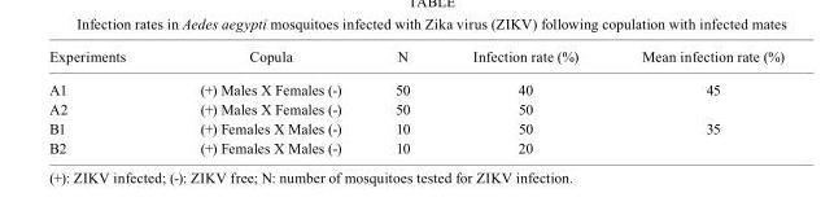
<table><thead><tr><td>Experiments</td><td>Copula</td><td>N</td><td>Infection rate (%)</td><td>Mean infection rate (%)</td></tr></thead><tbody><tr><td>A1</td><td>(+) Males X Females (-)</td><td>50</td><td>40</td><td rowspan="2">45</td></tr><tr><td>A2</td><td>(+) Males X Females (-)</td><td>50</td><td>50</td></tr><tr><td>B1</td><td>(+) Females X Males (-)</td><td>10</td><td>50</td><td rowspan="2">35</td></tr><tr><td>B2</td><td>(+) Females X Males (-)</td><td>10</td><td>20</td></tr></tbody></table>